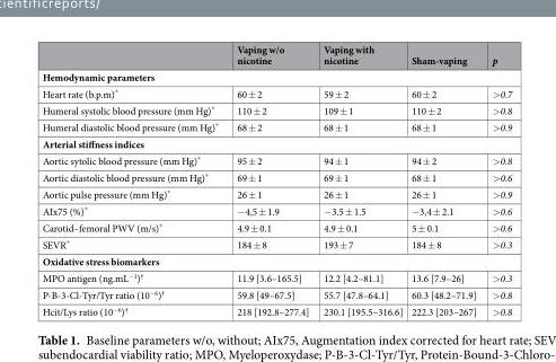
<table><thead><tr><td></td><td>Vaping w/o nicotine</td><td>Vaping with nicotine</td><td>Sham-vaping</td><td>p</td></tr></thead><tbody><tr><td colspan="5">Hemodynamic parameters</td></tr><tr><td>Heart rate (b.p.m)*</td><td>60 ± 2</td><td>59 ± 2</td><td>60 ± 2</td><td>&gt;0.7</td></tr><tr><td>Humeral systolic blood pressure (mm Hg)*</td><td>110 ± 2</td><td>109 ± 1</td><td>110 ± 2</td><td>&gt;0.8</td></tr><tr><td>Humeral diastolic blood pressure (mm Hg)*</td><td>68 ± 2</td><td>68 ± 1</td><td>68 ± 1</td><td>&gt;0.9</td></tr><tr><td colspan="5">Arterial stiffness indices</td></tr><tr><td>Aortic sytolic blood pressure (mm Hg)*</td><td>95 ± 2</td><td>94 ± 1</td><td>94 ± 2</td><td>&gt;0.8</td></tr><tr><td>Aortic diastolic blood pressure (mm Hg)*</td><td>69 ± 1</td><td>69 ± 1</td><td>68 ± 1</td><td>&gt;0.6</td></tr><tr><td>Aortic pulse pressure (mm Hg)*</td><td>26 ± 1</td><td>26 ± 1</td><td>26 ± 1</td><td>&gt;0.9</td></tr><tr><td>AIx75 (%)*</td><td>−4,5 ± 1.9</td><td>−3.5 ± 1.5</td><td>−3,4 ± 2.1</td><td>&gt;0.6</td></tr><tr><td>Carotid–femoral PWV (m/s)*</td><td>4.9 ± 0.1</td><td>4.9 ± 0.1</td><td>5 ± 0.1</td><td>&gt;0.6</td></tr><tr><td>SEVR*</td><td>184 ± 8</td><td>193 ± 7</td><td>184 ± 8</td><td>&gt;0.3</td></tr><tr><td colspan="5">Oxidative stress biomarkers</td></tr><tr><td>MPO antigen (ng.mL<sup>−1</sup>)<sup>†</sup></td><td>11.9 [3.6–165.5]</td><td>12.2 [4.2–81.1]</td><td>13.6 [7.9–26]</td><td>&gt;0.3</td></tr><tr><td>P-B-3-Cl-Tyr/Tyr ratio (10<sup>−6</sup>)<sup>†</sup></td><td>59.8 [49–67.5]</td><td>55.7 [47.8–64.1]</td><td>60.3 [48.2–71.9]</td><td>&gt;0.8</td></tr><tr><td>Hcit/Lys ratio (10<sup>−6</sup>)<sup>†</sup></td><td>218 [192.8–277.4]</td><td>230.1 [195.5–316.6]</td><td>222.3 [203–267]</td><td>&gt;0.8</td></tr></tbody></table>